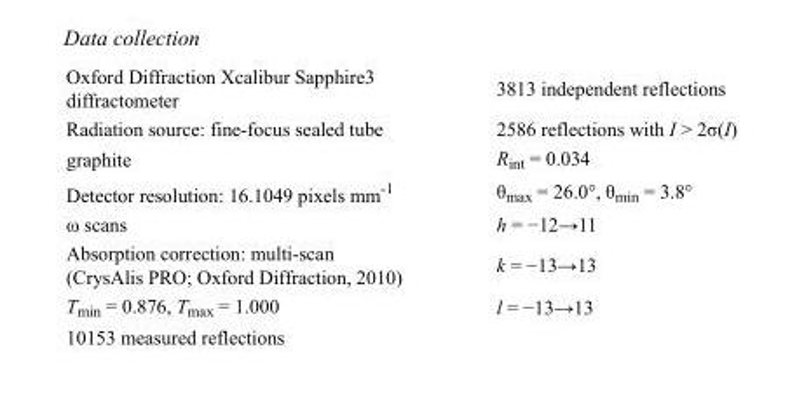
<table><tbody><tr><td>Oxford Diffraction Xcalibur Sapphire3 diffractometer</td><td>3813 independent reflections</td></tr><tr><td>Radiation source: fine-focus sealed tube</td><td>2586 reflections with I &gt; 2σ(I)</td></tr><tr><td>graphite</td><td>R<sub>int</sub> = 0.034</td></tr><tr><td>Detector resolution: 16.1049 pixels mm<sup>-1</sup></td><td>θ<sub>max</sub> = 26.0°, θ<sub>min</sub> = 3.8°</td></tr><tr><td>ω scans</td><td>h = −12→11</td></tr><tr><td>Absorption correction: multi-scan (CrysAlis PRO; Oxford Diffraction, 2010)</td><td>k = −13→13</td></tr><tr><td>T<sub>min</sub> = 0.876, T<sub>max</sub> = 1.000</td><td>l = −13→13</td></tr><tr><td>10153 measured reflections</td><td></td></tr></tbody></table>